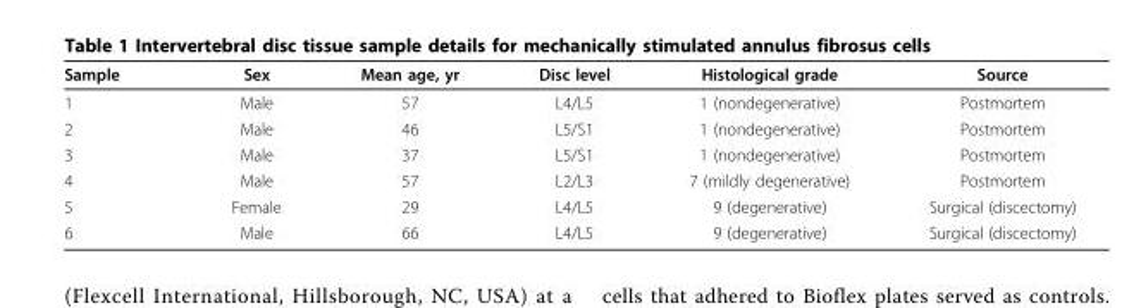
<table><thead><tr><td>Sample</td><td>Sex</td><td>Mean age, yr</td><td>Disc level</td><td>Histological grade</td><td>Source</td></tr></thead><tbody><tr><td>1</td><td>Male</td><td>57</td><td>L4/L5</td><td>1 (nondegenerative)</td><td>Postmortem</td></tr><tr><td>2</td><td>Male</td><td>46</td><td>L5/S1</td><td>1 (nondegenerative)</td><td>Postmortem</td></tr><tr><td>3</td><td>Male</td><td>37</td><td>L5/S1</td><td>1 (nondegenerative)</td><td>Postmortem</td></tr><tr><td>4</td><td>Male</td><td>57</td><td>L2/L3</td><td>7 (mildly degenerative)</td><td>Postmortem</td></tr><tr><td>5</td><td>Female</td><td>29</td><td>L4/L5</td><td>9 (degenerative)</td><td>Surgical (discectomy)</td></tr><tr><td>6</td><td>Male</td><td>66</td><td>L4/L5</td><td>9 (degenerative)</td><td>Surgical (discectomy)</td></tr></tbody></table>